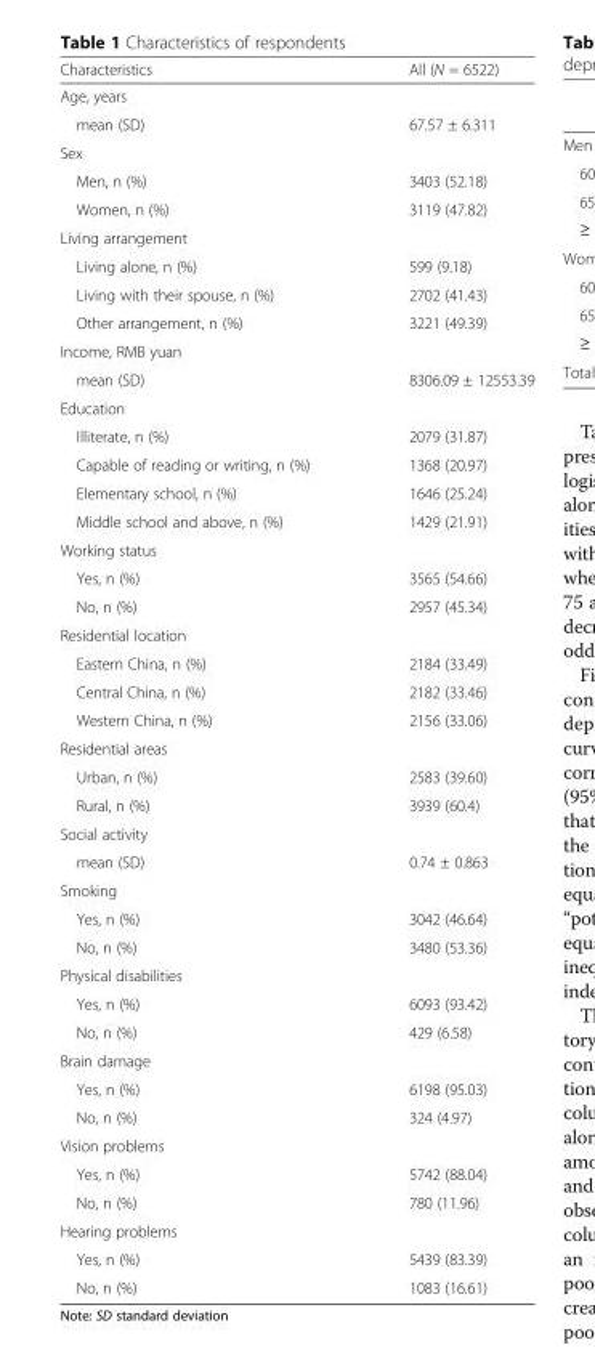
<table><thead><tr><td>Characteristics</td><td>All (N = 6522)</td></tr></thead><tbody><tr><td colspan="2">Age, years</td></tr><tr><td>mean (SD)</td><td>67.57 ± 6.311</td></tr><tr><td colspan="2">Sex</td></tr><tr><td>Men, n (%)</td><td>3403 (52.18)</td></tr><tr><td>Women, n (%)</td><td>3119 (47.82)</td></tr><tr><td colspan="2">Living arrangement</td></tr><tr><td>Living alone, n (%)</td><td>599 (9.18)</td></tr><tr><td>Living with their spouse, n (%)</td><td>2702 (41.43)</td></tr><tr><td>Other arrangement, n (%)</td><td>3221 (49.39)</td></tr><tr><td colspan="2">Income, RMB yuan</td></tr><tr><td>mean (SD)</td><td>8306.09 ± 12553.39</td></tr><tr><td colspan="2">Education</td></tr><tr><td>Illiterate, n (%)</td><td>2079 (31.87)</td></tr><tr><td>Capable of reading or writing, n (%)</td><td>1368 (20.97)</td></tr><tr><td>Elementary school, n (%)</td><td>1646 (25.24)</td></tr><tr><td>Middle school and above, n (%)</td><td>1429 (21.91)</td></tr><tr><td colspan="2">Working status</td></tr><tr><td>Yes, n (%)</td><td>3565 (54.66)</td></tr><tr><td>No, n (%)</td><td>2957 (45.34)</td></tr><tr><td colspan="2">Residential location</td></tr><tr><td>Eastern China, n (%)</td><td>2184 (33.49)</td></tr><tr><td>Central China, n (%)</td><td>2182 (33.46)</td></tr><tr><td>Western China, n (%)</td><td>2156 (33.06)</td></tr><tr><td colspan="2">Residential areas</td></tr><tr><td>Urban, n (%)</td><td>2583 (39.60)</td></tr><tr><td>Rural, n (%)</td><td>3939 (60.4)</td></tr><tr><td colspan="2">Social activity</td></tr><tr><td>mean (SD)</td><td>0.74 ± 0.863</td></tr><tr><td colspan="2">Smoking</td></tr><tr><td>Yes, n (%)</td><td>3042 (46.64)</td></tr><tr><td>No, n (%)</td><td>3480 (53.36)</td></tr><tr><td colspan="2">Physical disabilities</td></tr><tr><td>Yes, n (%)</td><td>6093 (93.42)</td></tr><tr><td>No, n (%)</td><td>429 (6.58)</td></tr><tr><td colspan="2">Brain damage</td></tr><tr><td>Yes, n (%)</td><td>6198 (95.03)</td></tr><tr><td>No, n (%)</td><td>324 (4.97)</td></tr><tr><td colspan="2">Vision problems</td></tr><tr><td>Yes, n (%)</td><td>5742 (88.04)</td></tr><tr><td>No, n (%)</td><td>780 (11.96)</td></tr><tr><td colspan="2">Hearing problems</td></tr><tr><td>Yes, n (%)</td><td>5439 (83.39)</td></tr><tr><td>No, n (%)</td><td>1083 (16.61)</td></tr></tbody></table>